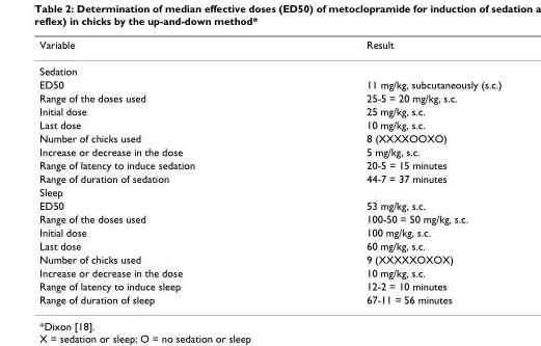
<table><thead><tr><td>Variable</td><td>Result</td></tr></thead><tbody><tr><td colspan="2">Sedation</td></tr><tr><td>ED50</td><td>11 mg/kg, subcutaneously (s.c.)</td></tr><tr><td>Range of the doses used</td><td>25-5 = 20 mg/kg, s.c.</td></tr><tr><td>Initial dose</td><td>25 mg/kg, s.c.</td></tr><tr><td>Last dose</td><td>10 mg/kg, s.c.</td></tr><tr><td>Number of chicks used</td><td>8 (XXXXOOXO)</td></tr><tr><td>Increase or decrease in the dose</td><td>5 mg/kg, s.c.</td></tr><tr><td>Range of latency to induce sedation</td><td>20-5 = 15 minutes</td></tr><tr><td>Range of duration of sedation</td><td>44-7 = 37 minutes</td></tr><tr><td colspan="2">Sleep</td></tr><tr><td>ED50</td><td>53 mg/kg, s.c.</td></tr><tr><td>Range of the doses used</td><td>100-50 = 50 mg/kg, s.c.</td></tr><tr><td>Initial dose</td><td>100 mg/kg, s.c.</td></tr><tr><td>Last dose</td><td>60 mg/kg, s.c.</td></tr><tr><td>Number of chicks used</td><td>9 (XXXXXOXOX)</td></tr><tr><td>Increase or decrease in the dose</td><td>10 mg/kg, s.c.</td></tr><tr><td>Range of latency to induce sleep</td><td>12-2 = 10 minutes</td></tr><tr><td>Range of duration of sleep</td><td>67-11 = 56 minutes</td></tr></tbody></table>